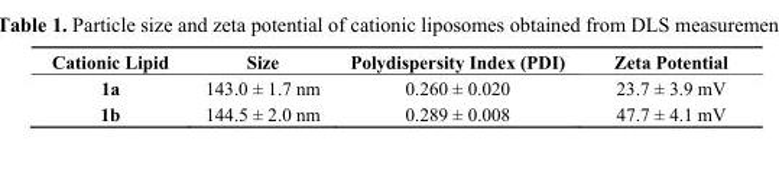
<table><thead><tr><td>Cationic Lipid</td><td>Size</td><td>Polydispersity Index (PDI)</td><td>Zeta Potential</td></tr></thead><tbody><tr><td>1a</td><td>143.0 ± 1.7 nm</td><td>0.260 ± 0.020</td><td>23.7 ± 3.9 mV</td></tr><tr><td>1b</td><td>144.5 ± 2.0 nm</td><td>0.289 ± 0.008</td><td>47.7 ± 4.1 mV</td></tr></tbody></table>